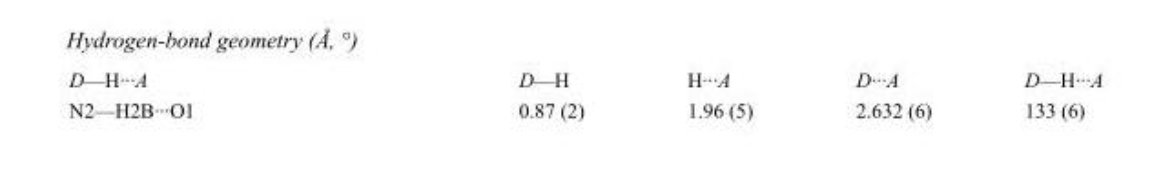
<table><tbody><tr><td>D—H···A</td><td>D—H</td><td>H···A</td><td>D···A</td><td>D—H···A</td></tr><tr><td>N2—H2B···O1</td><td>0.87 (2)</td><td>1.96 (5)</td><td>2.632 (6)</td><td>133 (6)</td></tr></tbody></table>